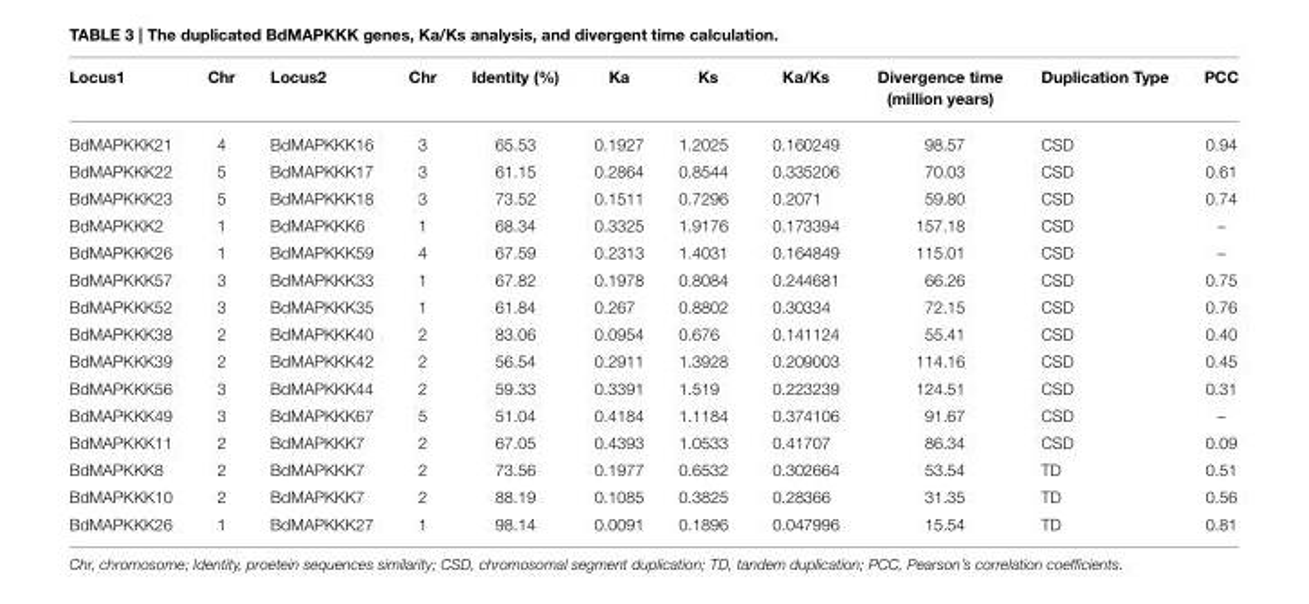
<table><thead><tr><td>Locus1</td><td>Chr</td><td>Locus2</td><td>Chr</td><td>Identity (%)</td><td>Ka</td><td>Ks</td><td>Ka/Ks</td><td>Divergence time (million years)</td><td>Duplication Type</td><td>PCC</td></tr></thead><tbody><tr><td>BdMAPKKK21</td><td>4</td><td>BdMAPKKK16</td><td>3</td><td>65.53</td><td>0.1927</td><td>1.2025</td><td>0.160249</td><td>98.57</td><td>CSD</td><td>0.94</td></tr><tr><td>BdMAPKKK22</td><td>5</td><td>BdMAPKKK17</td><td>3</td><td>61.15</td><td>0.2864</td><td>0.8544</td><td>0.335206</td><td>70.03</td><td>CSD</td><td>0.61</td></tr><tr><td>BdMAPKKK23</td><td>5</td><td>BdMAPKKK18</td><td>3</td><td>73.52</td><td>0.1511</td><td>0.7296</td><td>0.2071</td><td>59.80</td><td>CSD</td><td>0.74</td></tr><tr><td>BdMAPKKK2</td><td>1</td><td>BdMAPKKK6</td><td>1</td><td>68.34</td><td>0.3325</td><td>1.9176</td><td>0.173394</td><td>157.18</td><td>CSD</td><td>–</td></tr><tr><td>BdMAPKKK26</td><td>1</td><td>BdMAPKKK59</td><td>4</td><td>67.59</td><td>0.2313</td><td>1.4031</td><td>0.164849</td><td>115.01</td><td>CSD</td><td>–</td></tr><tr><td>BdMAPKKK57</td><td>3</td><td>BdMAPKKK33</td><td>1</td><td>67.82</td><td>0.1978</td><td>0.8084</td><td>0.244681</td><td>66.26</td><td>CSD</td><td>0.75</td></tr><tr><td>BdMAPKKK52</td><td>3</td><td>BdMAPKKK35</td><td>1</td><td>61.84</td><td>0.267</td><td>0.8802</td><td>0.30334</td><td>72.15</td><td>CSD</td><td>0.76</td></tr><tr><td>BdMAPKKK38</td><td>2</td><td>BdMAPKKK40</td><td>2</td><td>83.06</td><td>0.0954</td><td>0.676</td><td>0.141124</td><td>55.41</td><td>CSD</td><td>0.40</td></tr><tr><td>BdMAPKKK39</td><td>2</td><td>BdMAPKKK42</td><td>2</td><td>56.54</td><td>0.2911</td><td>1.3928</td><td>0.209003</td><td>114.16</td><td>CSD</td><td>0.45</td></tr><tr><td>BdMAPKKK56</td><td>3</td><td>BdMAPKKK44</td><td>2</td><td>59.33</td><td>0.3391</td><td>1.519</td><td>0.223239</td><td>124.51</td><td>CSD</td><td>0.31</td></tr><tr><td>BdMAPKKK49</td><td>3</td><td>BdMAPKKK67</td><td>5</td><td>51.04</td><td>0.4184</td><td>1.1184</td><td>0.374106</td><td>91.67</td><td>CSD</td><td>–</td></tr><tr><td>BdMAPKKK11</td><td>2</td><td>BdMAPKKK7</td><td>2</td><td>67.05</td><td>0.4393</td><td>1.0533</td><td>0.41707</td><td>86.34</td><td>CSD</td><td>0.09</td></tr><tr><td>BdMAPKKK8</td><td>2</td><td>BdMAPKKK7</td><td>2</td><td>73.56</td><td>0.1977</td><td>0.6532</td><td>0.302664</td><td>53.54</td><td>TD</td><td>0.51</td></tr><tr><td>BdMAPKKK10</td><td>2</td><td>BdMAPKKK7</td><td>2</td><td>88.19</td><td>0.1085</td><td>0.3825</td><td>0.28366</td><td>31.35</td><td>TD</td><td>0.56</td></tr><tr><td>BdMAPKKK26</td><td>1</td><td>BdMAPKKK27</td><td>1</td><td>98.14</td><td>0.0091</td><td>0.1896</td><td>0.047996</td><td>15.54</td><td>TD</td><td>0.81</td></tr></tbody></table>